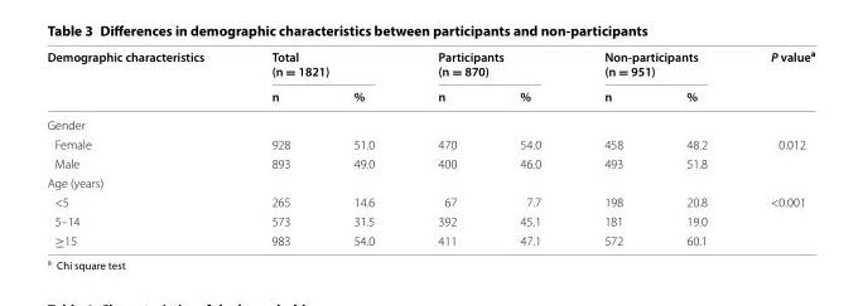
<table><thead><tr><td rowspan="2">Demographic characteristics</td><td colspan="2">Total (n = 1821)</td><td colspan="2">Participants (n = 870)</td><td colspan="2">Non‑participants (n = 951)</td><td rowspan="2">P value<sup>a</sup></td></tr><tr><td>n</td><td>%</td><td>n</td><td>%</td><td>n</td><td>%</td></tr></thead><tbody><tr><td colspan="8">Gender</td></tr><tr><td>Female</td><td>928</td><td>51.0</td><td>470</td><td>54.0</td><td>458</td><td>48.2</td><td rowspan="2">0.012</td></tr><tr><td>Male</td><td>893</td><td>49.0</td><td>400</td><td>46.0</td><td>493</td><td>51.8</td></tr><tr><td colspan="8">Age (years)</td></tr><tr><td>&lt;5</td><td>265</td><td>14.6</td><td>67</td><td>7.7</td><td>198</td><td>20.8</td><td rowspan="3">&lt;0.001</td></tr><tr><td>5–14</td><td>573</td><td>31.5</td><td>392</td><td>45.1</td><td>181</td><td>19.0</td></tr><tr><td>≥15</td><td>983</td><td>54.0</td><td>411</td><td>47.1</td><td>572</td><td>60.1</td></tr></tbody></table>